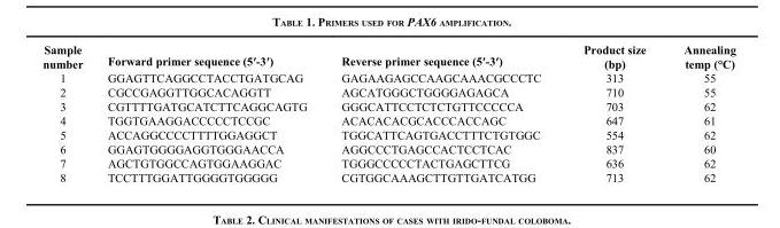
<table><thead><tr><td>Sample number</td><td>Forward primer sequence (5′-3′)</td><td>Reverse primer sequence (5′-3′)</td><td>Product size (bp)</td><td>Annealing temp (°C)</td></tr></thead><tbody><tr><td>1</td><td>GGAGTTCAGGCCTACCTGATGCAG</td><td>GAGAAGAGCCAAGCAAACGCCCTC</td><td>313</td><td>55</td></tr><tr><td>2</td><td>CGCCGAGGTTGGCACAGGTT</td><td>AGCATGGGCTGGGGAGAGCA</td><td>710</td><td>55</td></tr><tr><td>3</td><td>CGTTTTGATGCATCTTCAGGCAGTG</td><td>GGGCATTCCTCTCTGTTCCCCCA</td><td>703</td><td>62</td></tr><tr><td>4</td><td>TGGTGAAGGACCCCCTCCGC</td><td>ACACACACGCACCCACCAGC</td><td>647</td><td>61</td></tr><tr><td>5</td><td>ACCAGGCCCCTTTTGGAGGCT</td><td>TGGCATTCAGTGACCTTTCTGTGGC</td><td>554</td><td>62</td></tr><tr><td>6</td><td>GGAGTGGGGAGGTGGGAACCA</td><td>AGGCCCTGAGCCACTCCTCAC</td><td>837</td><td>60</td></tr><tr><td>7</td><td>AGCTGTGGCCAGTGGAAGGAC</td><td>TGGGCCCCCTACTGAGCTTCG</td><td>636</td><td>62</td></tr><tr><td>8</td><td>TCCTTTGGATTGGGGTGGGGG</td><td>CGTGGCAAAGCTTGTTGATCATGG</td><td>713</td><td>62</td></tr></tbody></table>